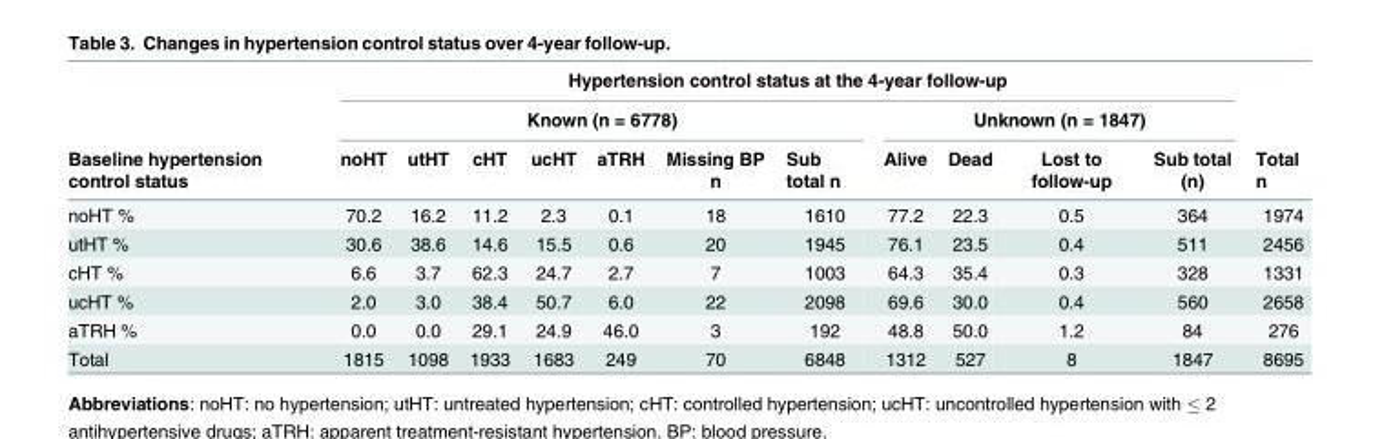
<table><thead><tr><td rowspan="3">Baseline hypertension control status</td><td colspan="11">Hypertension control status at the 4-year follow-up</td><td rowspan="3">Total n</td></tr><tr><td colspan="7">Known (n = 6778)</td><td colspan="4">Unknown (n = 1847)</td></tr><tr><td>noHT</td><td>utHT</td><td>cHT</td><td>ucHT</td><td>aTRH</td><td>Missing BP n</td><td>Sub total n</td><td>Alive</td><td>Dead</td><td>Lost to follow-up</td><td>Sub total (n)</td></tr></thead><tbody><tr><td>noHT %</td><td>70.2</td><td>16.2</td><td>11.2</td><td>2.3</td><td>0.1</td><td>18</td><td>1610</td><td>77.2</td><td>22.3</td><td>0.5</td><td>364</td><td>1974</td></tr><tr><td>utHT %</td><td>30.6</td><td>38.6</td><td>14.6</td><td>15.5</td><td>0.6</td><td>20</td><td>1945</td><td>76.1</td><td>23.5</td><td>0.4</td><td>511</td><td>2456</td></tr><tr><td>cHT %</td><td>6.6</td><td>3.7</td><td>62.3</td><td>24.7</td><td>2.7</td><td>7</td><td>1003</td><td>64.3</td><td>35.4</td><td>0.3</td><td>328</td><td>1331</td></tr><tr><td>ucHT %</td><td>2.0</td><td>3.0</td><td>38.4</td><td>50.7</td><td>6.0</td><td>22</td><td>2098</td><td>69.6</td><td>30.0</td><td>0.4</td><td>560</td><td>2658</td></tr><tr><td>aTRH %</td><td>0.0</td><td>0.0</td><td>29.1</td><td>24.9</td><td>46.0</td><td>3</td><td>192</td><td>48.8</td><td>50.0</td><td>1.2</td><td>84</td><td>276</td></tr><tr><td>Total</td><td>1815</td><td>1098</td><td>1933</td><td>1683</td><td>249</td><td>70</td><td>6848</td><td>1312</td><td>527</td><td>8</td><td>1847</td><td>8695</td></tr></tbody></table>